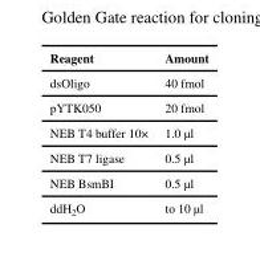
<table><thead><tr><td>Reagent</td><td>Amount</td></tr></thead><tbody><tr><td>dsOligo</td><td>40 fmol</td></tr><tr><td>pYTK050</td><td>20 fmol</td></tr><tr><td>NEB T4 buffer 10×</td><td>1.0 μl</td></tr><tr><td>NEB T7 ligase</td><td>0.5 μl</td></tr><tr><td>NEB BsmBI</td><td>0.5 μl</td></tr><tr><td>ddH<sub>2</sub>O</td><td>to 10 μl</td></tr></tbody></table>